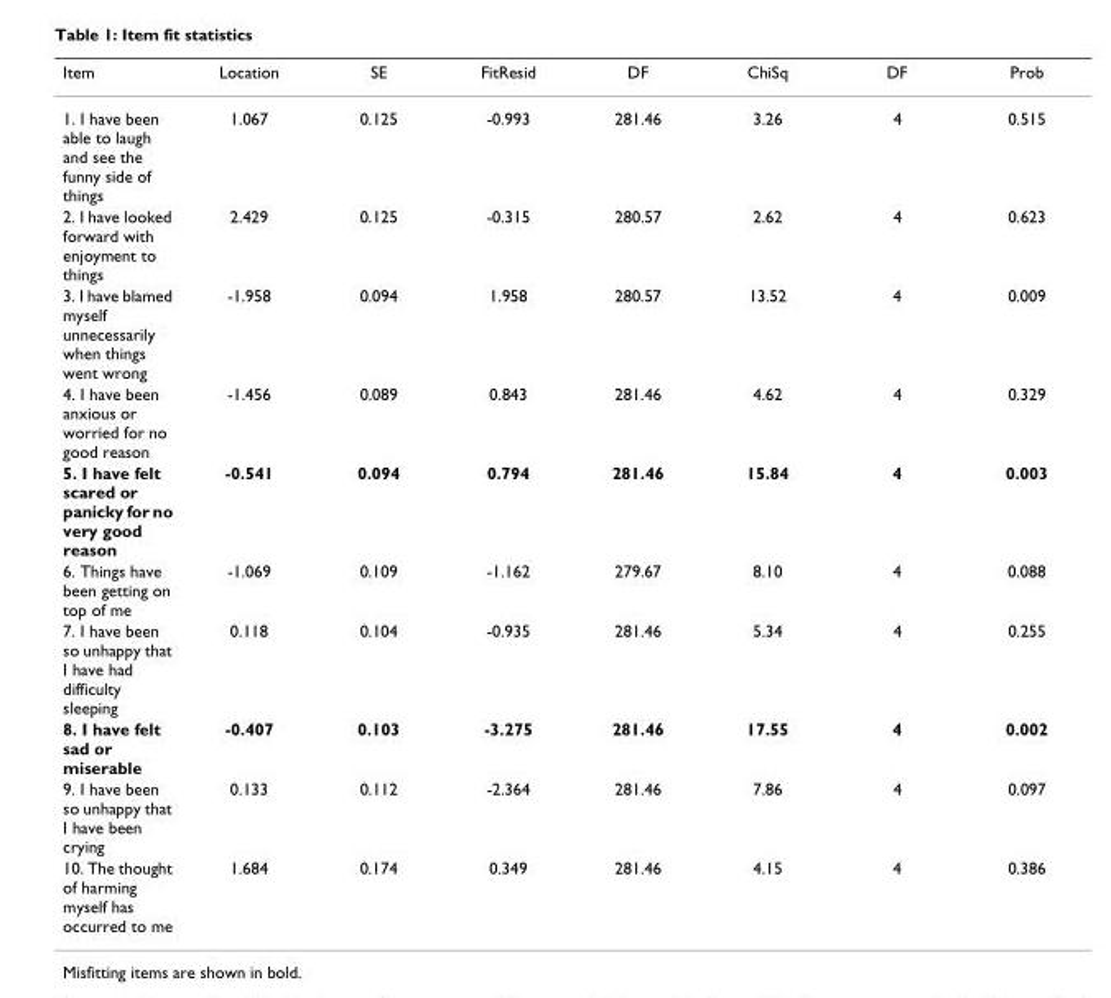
<table><thead><tr><td>Item</td><td>Location</td><td>SE</td><td>FitResid</td><td>DF</td><td>ChiSq</td><td>DF</td><td>Prob</td></tr></thead><tbody><tr><td>1. I have been able to laugh and see the funny side of things</td><td>1.067</td><td>0.125</td><td>-0.993</td><td>281.46</td><td>3.26</td><td>4</td><td>0.515</td></tr><tr><td>2. I have looked forward with enjoyment to things</td><td>2.429</td><td>0.125</td><td>-0.315</td><td>280.57</td><td>2.62</td><td>4</td><td>0.623</td></tr><tr><td>3. I have blamed myself unnecessarily when things went wrong</td><td>-1.958</td><td>0.094</td><td>1.958</td><td>280.57</td><td>13.52</td><td>4</td><td>0.009</td></tr><tr><td>4. I have been anxious or worried for no good reason</td><td>-1.456</td><td>0.089</td><td>0.843</td><td>281.46</td><td>4.62</td><td>4</td><td>0.329</td></tr><tr><td>5. I have felt scared or panicky for no very good reason</td><td>-0.541</td><td>0.094</td><td>0.794</td><td>281.46</td><td>15.84</td><td>4</td><td>0.003</td></tr><tr><td>6. Things have been getting on top of me</td><td>-1.069</td><td>0.109</td><td>-1.162</td><td>279.67</td><td>8.10</td><td>4</td><td>0.088</td></tr><tr><td>7. I have been so unhappy that I have had difficulty sleeping</td><td>0.118</td><td>0.104</td><td>-0.935</td><td>281.46</td><td>5.34</td><td>4</td><td>0.255</td></tr><tr><td>8. I have felt sad or miserable</td><td>-0.407</td><td>0.103</td><td>-3.275</td><td>281.46</td><td>17.55</td><td>4</td><td>0.002</td></tr><tr><td>9. I have been so unhappy that I have been crying</td><td>0.133</td><td>0.112</td><td>-2.364</td><td>281.46</td><td>7.86</td><td>4</td><td>0.097</td></tr><tr><td>10. The thought of harming myself has occurred to me</td><td>1.684</td><td>0.174</td><td>0.349</td><td>281.46</td><td>4.15</td><td>4</td><td>0.386</td></tr></tbody></table>